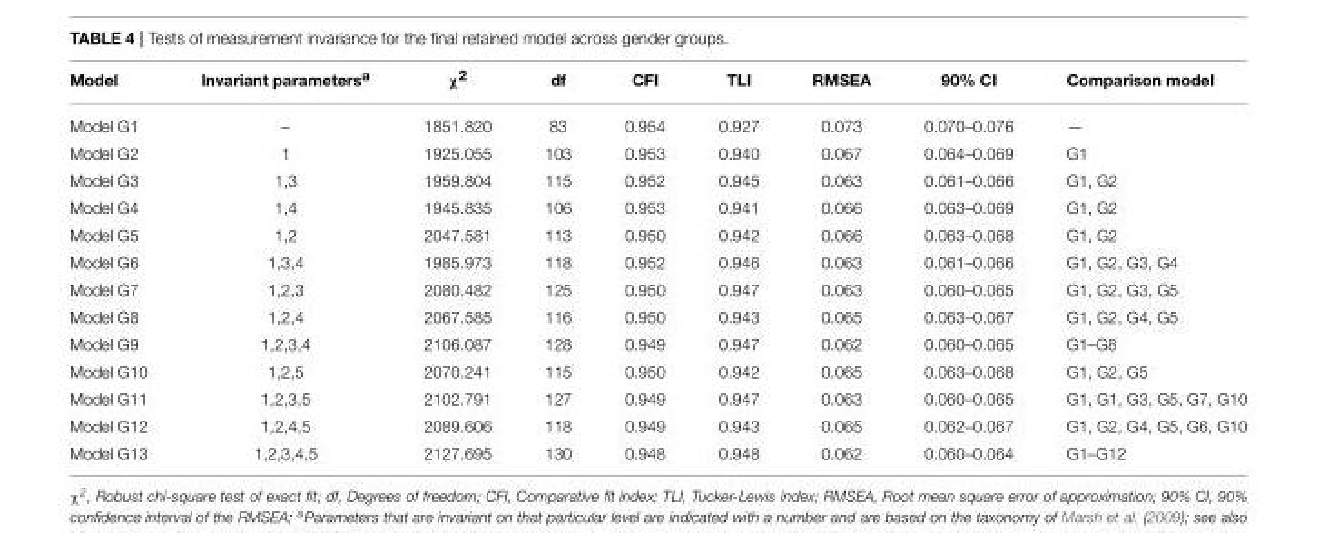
<table><thead><tr><td>Model</td><td>Invariant parameters<sup>a</sup></td><td>χ<sup>2</sup></td><td>df</td><td>CFI</td><td>TLI</td><td>RMSEA</td><td>90% CI</td><td>Comparison model</td></tr></thead><tbody><tr><td>Model G1</td><td>–</td><td>1851.820</td><td>83</td><td>0.954</td><td>0.927</td><td>0.073</td><td>0.070–0.076</td><td>—</td></tr><tr><td>Model G2</td><td>1</td><td>1925.055</td><td>103</td><td>0.953</td><td>0.940</td><td>0.067</td><td>0.064–0.069</td><td>G1</td></tr><tr><td>Model G3</td><td>1,3</td><td>1959.804</td><td>115</td><td>0.952</td><td>0.945</td><td>0.063</td><td>0.061–0.066</td><td>G1, G2</td></tr><tr><td>Model G4</td><td>1,4</td><td>1945.835</td><td>106</td><td>0.953</td><td>0.941</td><td>0.066</td><td>0.063–0.069</td><td>G1, G2</td></tr><tr><td>Model G5</td><td>1,2</td><td>2047.581</td><td>113</td><td>0.950</td><td>0.942</td><td>0.066</td><td>0.063–0.068</td><td>G1, G2</td></tr><tr><td>Model G6</td><td>1,3,4</td><td>1985.973</td><td>118</td><td>0.952</td><td>0.946</td><td>0.063</td><td>0.061–0.066</td><td>G1, G2, G3, G4</td></tr><tr><td>Model G7</td><td>1,2,3</td><td>2080.482</td><td>125</td><td>0.950</td><td>0.947</td><td>0.063</td><td>0.060–0.065</td><td>G1, G2, G3, G5</td></tr><tr><td>Model G8</td><td>1,2,4</td><td>2067.585</td><td>116</td><td>0.950</td><td>0.943</td><td>0.065</td><td>0.063–0.067</td><td>G1, G2, G4, G5</td></tr><tr><td>Model G9</td><td>1,2,3,4</td><td>2106.087</td><td>128</td><td>0.949</td><td>0.947</td><td>0.062</td><td>0.060–0.065</td><td>G1–G8</td></tr><tr><td>Model G10</td><td>1,2,5</td><td>2070.241</td><td>115</td><td>0.950</td><td>0.942</td><td>0.065</td><td>0.063–0.068</td><td>G1, G2, G5</td></tr><tr><td>Model G11</td><td>1,2,3,5</td><td>2102.791</td><td>127</td><td>0.949</td><td>0.947</td><td>0.063</td><td>0.060–0.065</td><td>G1, G1, G3, G5, G7, G10</td></tr><tr><td>Model G12</td><td>1,2,4,5</td><td>2089.606</td><td>118</td><td>0.949</td><td>0.943</td><td>0.065</td><td>0.062–0.067</td><td>G1, G2, G4, G5, G6, G10</td></tr><tr><td>Model G13</td><td>1,2,3,4,5</td><td>2127.695</td><td>130</td><td>0.948</td><td>0.948</td><td>0.062</td><td>0.060–0.064</td><td>G1–G12</td></tr></tbody></table>